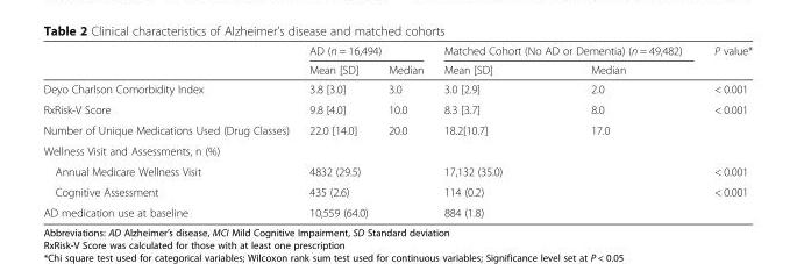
<table><thead><tr><td rowspan="2"></td><td colspan="2">AD (n = 16,494)</td><td colspan="2">Matched Cohort (No AD or Dementia) (n = 49,482)</td><td rowspan="2">P value*</td></tr><tr><td>Mean [SD]</td><td>Median</td><td>Mean [SD]</td><td>Median</td></tr></thead><tbody><tr><td>Deyo Charlson Comorbidity Index</td><td>3.8 [3.0]</td><td>3.0</td><td>3.0 [2.9]</td><td>2.0</td><td>&lt; 0.001</td></tr><tr><td>RxRisk-V Score</td><td>9.8 [4.0]</td><td>10.0</td><td>8.3 [3.7]</td><td>8.0</td><td>&lt; 0.001</td></tr><tr><td>Number of Unique Medications Used (Drug Classes)</td><td>22.0 [14.0]</td><td>20.0</td><td>18.2[10.7]</td><td>17.0</td><td></td></tr><tr><td colspan="6">Wellness Visit and Assessments, n (%)</td></tr><tr><td>Annual Medicare Wellness Visit</td><td>4832 (29.5)</td><td></td><td>17,132 (35.0)</td><td></td><td>&lt; 0.001</td></tr><tr><td>Cognitive Assessment</td><td>435 (2.6)</td><td></td><td>114 (0.2)</td><td></td><td>&lt; 0.001</td></tr><tr><td>AD medication use at baseline</td><td>10,559 (64.0)</td><td></td><td>884 (1.8)</td><td></td><td></td></tr></tbody></table>